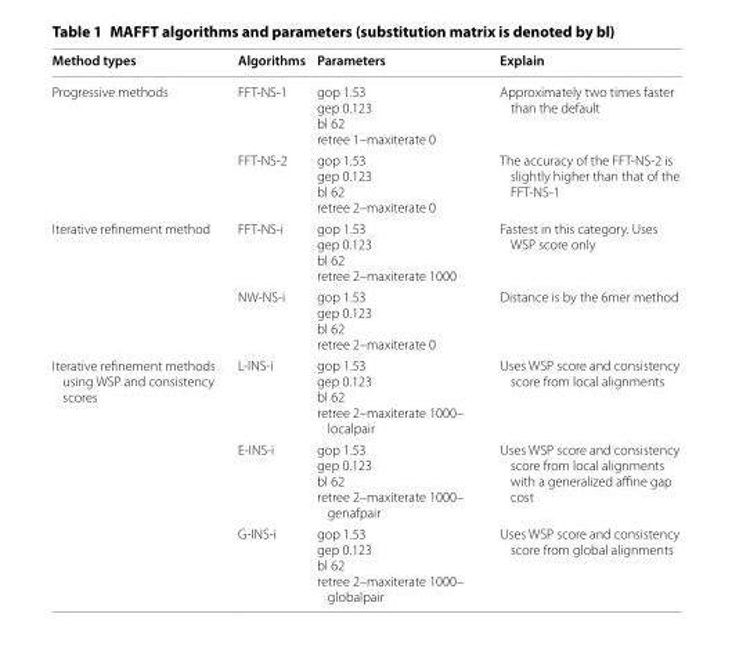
<table><thead><tr><td>Method types</td><td>Algorithms</td><td>Parameters</td><td>Explain</td></tr></thead><tbody><tr><td rowspan="2">Progressive methods</td><td>FFT-NS-1</td><td>gop 1.53 gep 0.123 bl 62 retree 1–maxiterate 0</td><td>Approximately two times faster than the default</td></tr><tr><td>FFT-NS-2</td><td>gop 1.53 gep 0.123 bl 62 retree 2–maxiterate 0</td><td>The accuracy of the FFT-NS-2 is slightly higher than that of the FFT-NS-1</td></tr><tr><td rowspan="2">Iterative refinement method</td><td>FFT-NS-i</td><td>gop 1.53 gep 0.123 bl 62 retree 2–maxiterate 1000</td><td>Fastest in this category. Uses WSP score only</td></tr><tr><td>NW-NS-i</td><td>gop 1.53 gep 0.123 bl 62 retree 2–maxiterate 0</td><td>Distance is by the 6mer method</td></tr><tr><td rowspan="3">Iterative refinement methods using WSP and consistency scores</td><td>L-INS-i</td><td>gop 1.53 gep 0.123 bl 62 retree 2–maxiterate 1000– localpair</td><td>Uses WSP score and consistency score from local alignments</td></tr><tr><td>E-INS-i</td><td>gop 1.53 gep 0.123 bl 62 retree 2–maxiterate 1000– genafpair</td><td>Uses WSP score and consistency score from local alignments with a generalized affine gap cost</td></tr><tr><td>G-INS-i</td><td>gop 1.53 gep 0.123 bl 62 retree 2–maxiterate 1000– globalpair</td><td>Uses WSP score and consistency score from global alignments</td></tr></tbody></table>